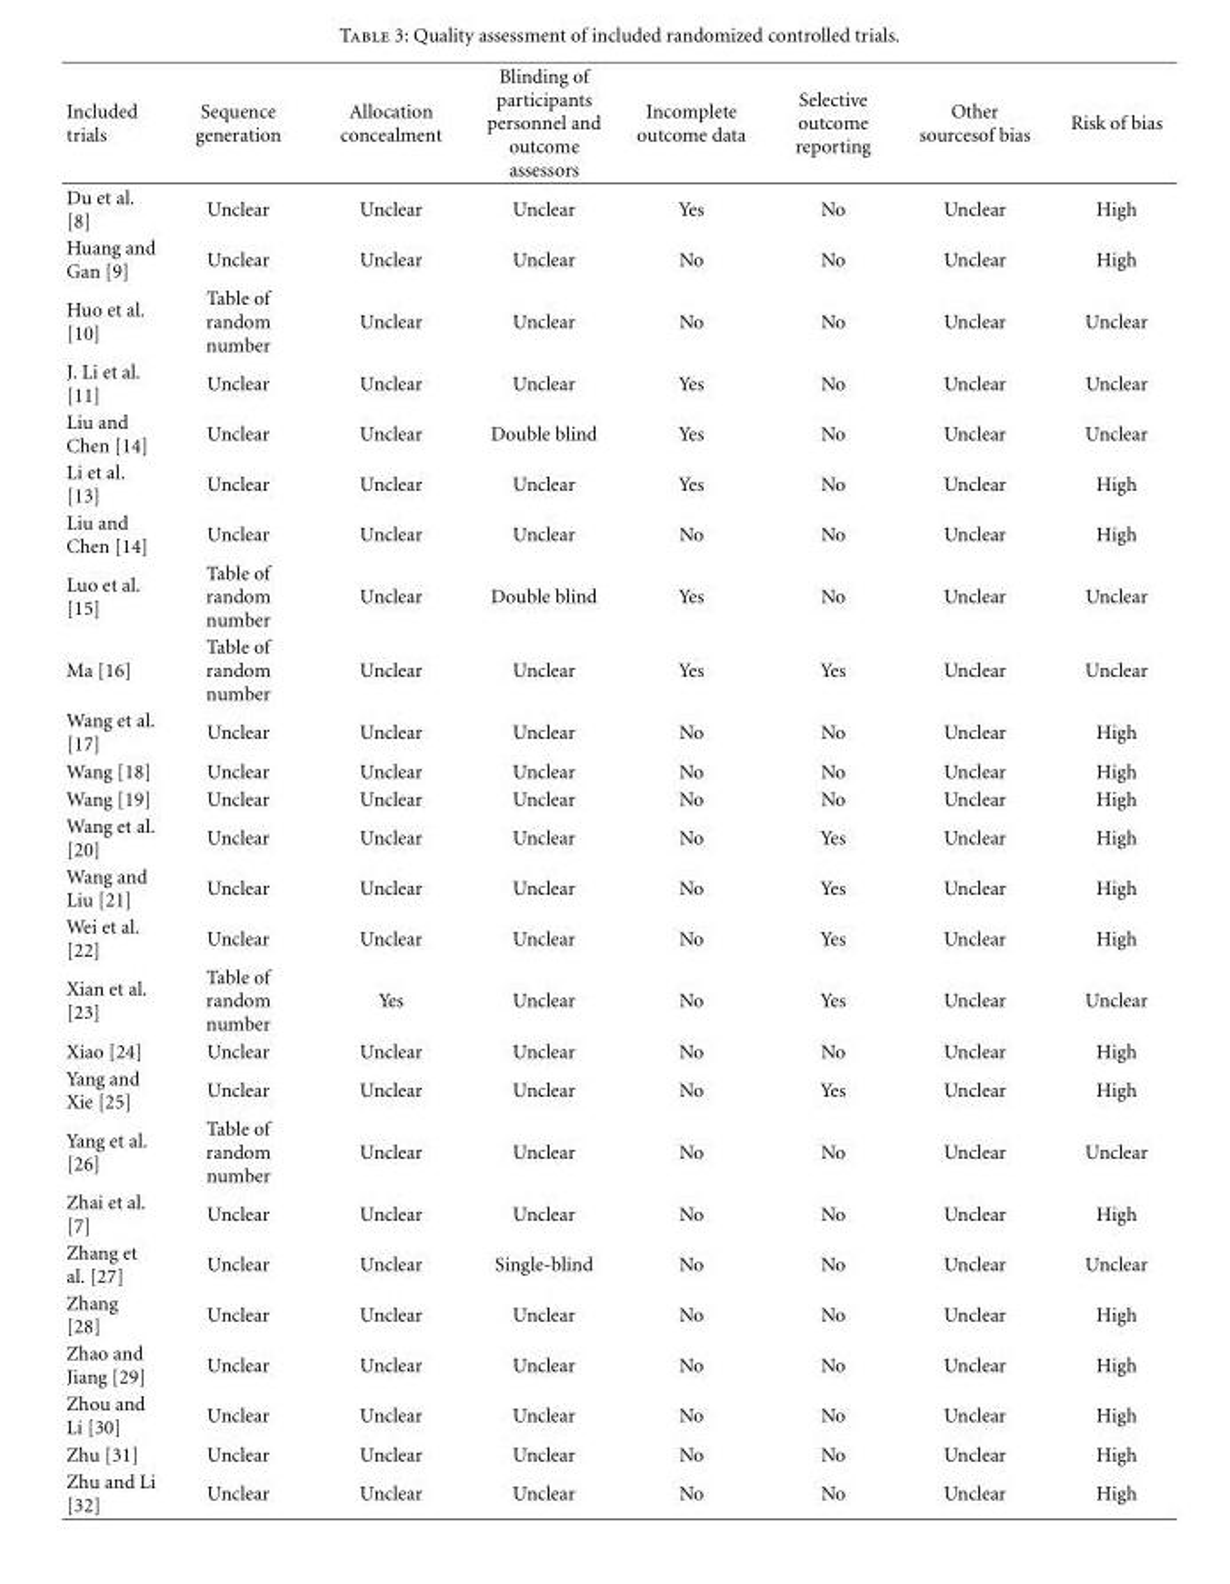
<table><thead><tr><td>Included trials</td><td>Sequence generation</td><td>Allocation concealment</td><td>Blinding of participants personnel and outcome assessors</td><td>Incomplete outcome data</td><td>Selective outcome reporting</td><td>Other sourcesof bias</td><td>Risk of bias</td></tr></thead><tbody><tr><td>Du et al. [8]</td><td>Unclear</td><td>Unclear</td><td>Unclear</td><td>Yes</td><td>No</td><td>Unclear</td><td>High</td></tr><tr><td>Huang and Gan [9]</td><td>Unclear</td><td>Unclear</td><td>Unclear</td><td>No</td><td>No</td><td>Unclear</td><td>High</td></tr><tr><td>Huo et al. [10]</td><td>Table of random number</td><td>Unclear</td><td>Unclear</td><td>No</td><td>No</td><td>Unclear</td><td>Unclear</td></tr><tr><td>J. Li et al. [11]</td><td>Unclear</td><td>Unclear</td><td>Unclear</td><td>Yes</td><td>No</td><td>Unclear</td><td>Unclear</td></tr><tr><td>Liu and Chen [14]</td><td>Unclear</td><td>Unclear</td><td>Double blind</td><td>Yes</td><td>No</td><td>Unclear</td><td>Unclear</td></tr><tr><td>Li et al. [13]</td><td>Unclear</td><td>Unclear</td><td>Unclear</td><td>Yes</td><td>No</td><td>Unclear</td><td>High</td></tr><tr><td>Liu and Chen [14]</td><td>Unclear</td><td>Unclear</td><td>Unclear</td><td>No</td><td>No</td><td>Unclear</td><td>High</td></tr><tr><td>Luo et al. [15]</td><td>Table of random number</td><td>Unclear</td><td>Double blind</td><td>Yes</td><td>No</td><td>Unclear</td><td>Unclear</td></tr><tr><td>Ma [16]</td><td>Table of random number</td><td>Unclear</td><td>Unclear</td><td>Yes</td><td>Yes</td><td>Unclear</td><td>Unclear</td></tr><tr><td>Wang et al. [17]</td><td>Unclear</td><td>Unclear</td><td>Unclear</td><td>No</td><td>No</td><td>Unclear</td><td>High</td></tr><tr><td>Wang [18]</td><td>Unclear</td><td>Unclear</td><td>Unclear</td><td>No</td><td>No</td><td>Unclear</td><td>High</td></tr><tr><td>Wang [19]</td><td>Unclear</td><td>Unclear</td><td>Unclear</td><td>No</td><td>No</td><td>Unclear</td><td>High</td></tr><tr><td>Wang et al. [20]</td><td>Unclear</td><td>Unclear</td><td>Unclear</td><td>No</td><td>Yes</td><td>Unclear</td><td>High</td></tr><tr><td>Wang and Liu [21]</td><td>Unclear</td><td>Unclear</td><td>Unclear</td><td>No</td><td>Yes</td><td>Unclear</td><td>High</td></tr><tr><td>Wei et al. [22]</td><td>Unclear</td><td>Unclear</td><td>Unclear</td><td>No</td><td>Yes</td><td>Unclear</td><td>High</td></tr><tr><td>Xian et al. [23]</td><td>Table of random number</td><td>Yes</td><td>Unclear</td><td>No</td><td>Yes</td><td>Unclear</td><td>Unclear</td></tr><tr><td>Xiao [24]</td><td>Unclear</td><td>Unclear</td><td>Unclear</td><td>No</td><td>No</td><td>Unclear</td><td>High</td></tr><tr><td>Yang and Xie [25]</td><td>Unclear</td><td>Unclear</td><td>Unclear</td><td>No</td><td>Yes</td><td>Unclear</td><td>High</td></tr><tr><td>Yang et al. [26]</td><td>Table of random number</td><td>Unclear</td><td>Unclear</td><td>No</td><td>No</td><td>Unclear</td><td>Unclear</td></tr><tr><td>Zhai et al. [7]</td><td>Unclear</td><td>Unclear</td><td>Unclear</td><td>No</td><td>No</td><td>Unclear</td><td>High</td></tr><tr><td>Zhang et al. [27]</td><td>Unclear</td><td>Unclear</td><td>Single-blind</td><td>No</td><td>No</td><td>Unclear</td><td>Unclear</td></tr><tr><td>Zhang [28]</td><td>Unclear</td><td>Unclear</td><td>Unclear</td><td>No</td><td>No</td><td>Unclear</td><td>High</td></tr><tr><td>Zhao and Jiang [29]</td><td>Unclear</td><td>Unclear</td><td>Unclear</td><td>No</td><td>No</td><td>Unclear</td><td>High</td></tr><tr><td>Zhou and Li [30]</td><td>Unclear</td><td>Unclear</td><td>Unclear</td><td>No</td><td>No</td><td>Unclear</td><td>High</td></tr><tr><td>Zhu [31]</td><td>Unclear</td><td>Unclear</td><td>Unclear</td><td>No</td><td>No</td><td>Unclear</td><td>High</td></tr><tr><td>Zhu and Li [32]</td><td>Unclear</td><td>Unclear</td><td>Unclear</td><td>No</td><td>No</td><td>Unclear</td><td>High</td></tr></tbody></table>